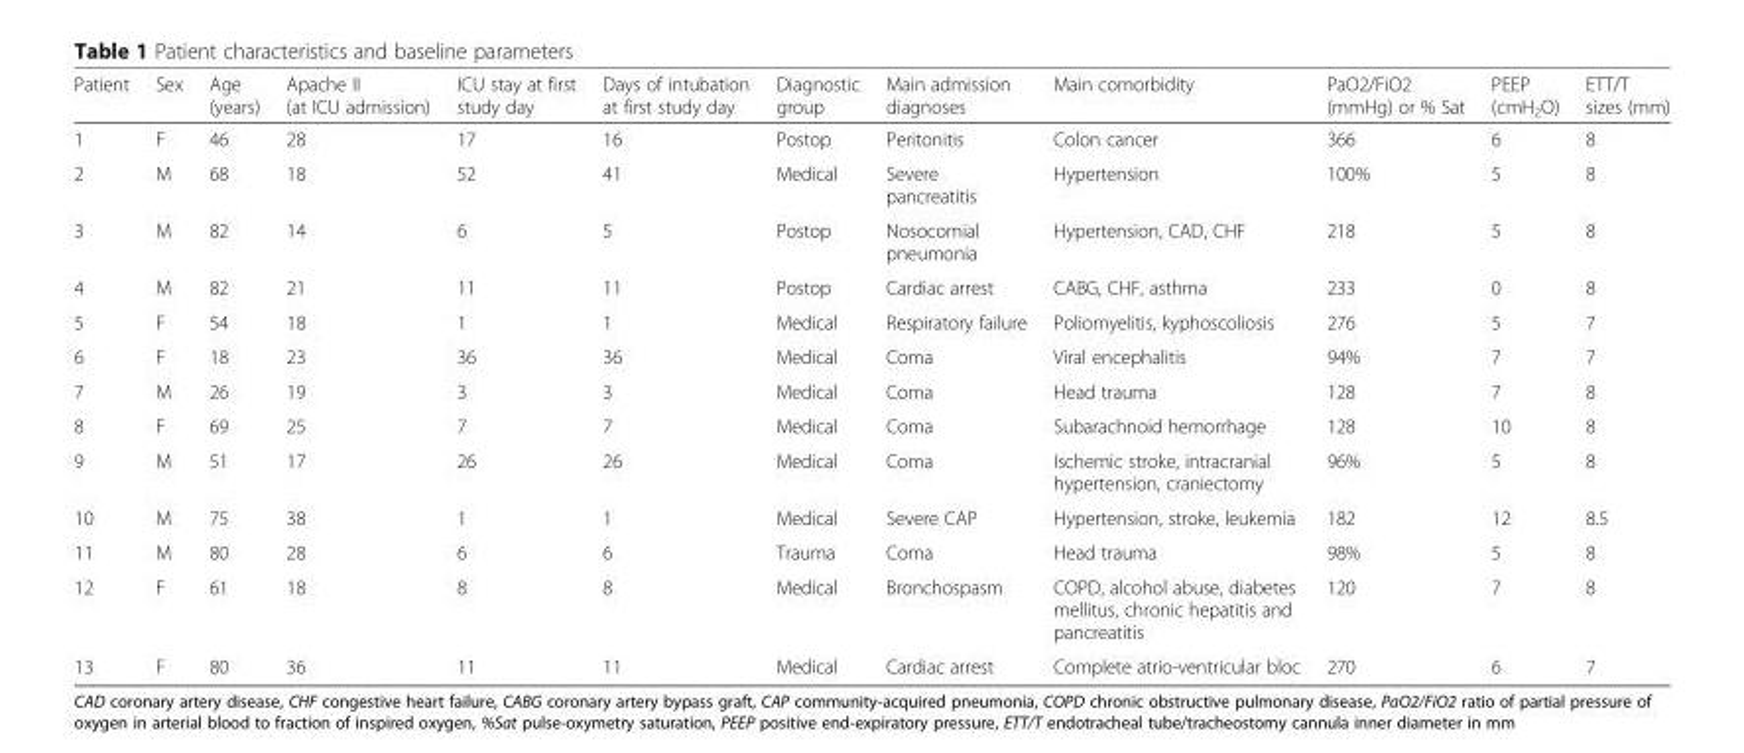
<table><thead><tr><td>Patient</td><td>Sex</td><td>Age (years)</td><td>Apache II (at ICU admission)</td><td>ICU stay at first study day</td><td>Days of intubation at first study day</td><td>Diagnostic group</td><td>Main admission diagnoses</td><td>Main comorbidity</td><td>PaO2/FiO2 (mmHg) or % Sat</td><td>PEEP (cmH<sub>2</sub>O)</td><td>ETT/T sizes (mm)</td></tr></thead><tbody><tr><td>1</td><td>F</td><td>46</td><td>28</td><td>17</td><td>16</td><td>Postop</td><td>Peritonitis</td><td>Colon cancer</td><td>366</td><td>6</td><td>8</td></tr><tr><td>2</td><td>M</td><td>68</td><td>18</td><td>52</td><td>41</td><td>Medical</td><td>Severe pancreatitis</td><td>Hypertension</td><td>100%</td><td>5</td><td>8</td></tr><tr><td>3</td><td>M</td><td>82</td><td>14</td><td>6</td><td>5</td><td>Postop</td><td>Nosocomial pneumonia</td><td>Hypertension, CAD, CHF</td><td>218</td><td>5</td><td>8</td></tr><tr><td>4</td><td>M</td><td>82</td><td>21</td><td>11</td><td>11</td><td>Postop</td><td>Cardiac arrest</td><td>CABG, CHF, asthma</td><td>233</td><td>0</td><td>8</td></tr><tr><td>5</td><td>F</td><td>54</td><td>18</td><td>1</td><td>1</td><td>Medical</td><td>Respiratory failure</td><td>Poliomyelitis, kyphoscoliosis</td><td>276</td><td>5</td><td>7</td></tr><tr><td>6</td><td>F</td><td>18</td><td>23</td><td>36</td><td>36</td><td>Medical</td><td>Coma</td><td>Viral encephalitis</td><td>94%</td><td>7</td><td>7</td></tr><tr><td>7</td><td>M</td><td>26</td><td>19</td><td>3</td><td>3</td><td>Medical</td><td>Coma</td><td>Head trauma</td><td>128</td><td>7</td><td>8</td></tr><tr><td>8</td><td>F</td><td>69</td><td>25</td><td>7</td><td>7</td><td>Medical</td><td>Coma</td><td>Subarachnoid hemorrhage</td><td>128</td><td>10</td><td>8</td></tr><tr><td>9</td><td>M</td><td>51</td><td>17</td><td>26</td><td>26</td><td>Medical</td><td>Coma</td><td>Ischemic stroke, intracranial hypertension, craniectomy</td><td>96%</td><td>5</td><td>8</td></tr><tr><td>10</td><td>M</td><td>75</td><td>38</td><td>1</td><td>1</td><td>Medical</td><td>Severe CAP</td><td>Hypertension, stroke, leukemia</td><td>182</td><td>12</td><td>8.5</td></tr><tr><td>11</td><td>M</td><td>80</td><td>28</td><td>6</td><td>6</td><td>Trauma</td><td>Coma</td><td>Head trauma</td><td>98%</td><td>5</td><td>8</td></tr><tr><td>12</td><td>F</td><td>61</td><td>18</td><td>8</td><td>8</td><td>Medical</td><td>Bronchospasm</td><td>COPD, alcohol abuse, diabetes mellitus, chronic hepatitis and pancreatitis</td><td>120</td><td>7</td><td>8</td></tr><tr><td>13</td><td>F</td><td>80</td><td>36</td><td>11</td><td>11</td><td>Medical</td><td>Cardiac arrest</td><td>Complete atrio-ventricular bloc</td><td>270</td><td>6</td><td>7</td></tr></tbody></table>